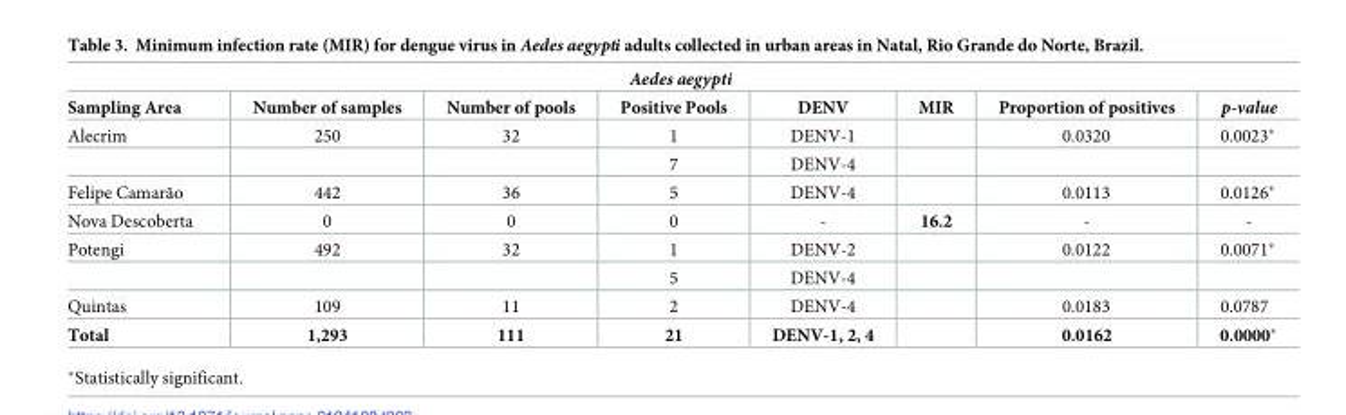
<table><thead><tr><td colspan="8">Aedes aegypti</td></tr><tr><td>Sampling Area</td><td>Number of samples</td><td>Number of pools</td><td>Positive Pools</td><td>DENV</td><td>MIR</td><td>Proportion of positives</td><td>p-value</td></tr></thead><tbody><tr><td rowspan="2">Alecrim</td><td>250</td><td>32</td><td>1</td><td>DENV-1</td><td></td><td>0.0320</td><td>0.0023*</td></tr><tr><td></td><td></td><td>7</td><td>DENV-4</td><td></td><td></td><td></td></tr><tr><td>Felipe Camarão</td><td>442</td><td>36</td><td>5</td><td>DENV-4</td><td></td><td>0.0113</td><td>0.0126*</td></tr><tr><td>Nova Descoberta</td><td>0</td><td>0</td><td>0</td><td>-</td><td>16.2</td><td>-</td><td>-</td></tr><tr><td rowspan="2">Potengi</td><td>492</td><td>32</td><td>1</td><td>DENV-2</td><td></td><td>0.0122</td><td>0.0071*</td></tr><tr><td></td><td></td><td>5</td><td>DENV-4</td><td></td><td></td><td></td></tr><tr><td>Quintas</td><td>109</td><td>11</td><td>2</td><td>DENV-4</td><td></td><td>0.0183</td><td>0.0787</td></tr><tr><td>Total</td><td>1,293</td><td>111</td><td>21</td><td>DENV-1, 2, 4</td><td></td><td>0.0162</td><td>0.0000*</td></tr></tbody></table>